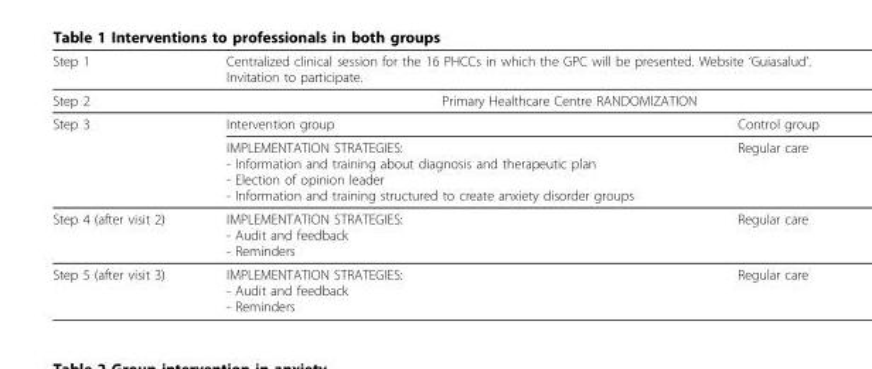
<table><thead><tr><td rowspan="3">Step 1 Step 2 Step 3</td><td rowspan="2" colspan="2">Centralized clinical session for the 16 PHCCs in which the GPC will be presented. Website ‘Guiasalud’. Invitation to participate. Primary Healthcare Centre RANDOMIZATION</td></tr><tr></tr><tr><td>Intervention group</td><td>Control group</td></tr></thead><tbody><tr><td></td><td>IMPLEMENTATION STRATEGIES: - Information and training about diagnosis and therapeutic plan - Election of opinion leader - Information and training structured to create anxiety disorder groups</td><td>Regular care</td></tr><tr><td>Step 4 (after visit 2)</td><td>IMPLEMENTATION STRATEGIES: - Audit and feedback - Reminders</td><td>Regular care</td></tr><tr><td>Step 5 (after visit 3)</td><td>IMPLEMENTATION STRATEGIES: - Audit and feedback - Reminders</td><td>Regular care</td></tr></tbody></table>